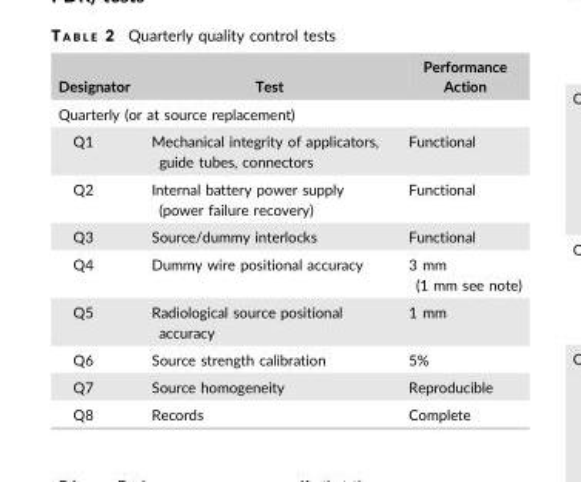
<table><thead><tr><td rowspan="2">Designator</td><td rowspan="2">Test</td><td rowspan="2">Performance Action</td></tr><tr></tr></thead><tbody><tr><td colspan="3">Quarterly (or at source replacement)</td></tr><tr><td>Q1</td><td>Mechanical integrity of applicators, guide tubes, connectors</td><td>Functional</td></tr><tr><td>Q2</td><td>Internal battery power supply (power failure recovery)</td><td>Functional</td></tr><tr><td>Q3</td><td>Source/dummy interlocks</td><td>Functional</td></tr><tr><td>Q4</td><td>Dummy wire positional accuracy</td><td>3 mm (1 mm see note)</td></tr><tr><td>Q5</td><td>Radiological source positional accuracy</td><td>1 mm</td></tr><tr><td>Q6</td><td>Source strength calibration</td><td>5%</td></tr><tr><td>Q7</td><td>Source homogeneity</td><td>Reproducible</td></tr><tr><td>Q8</td><td>Records</td><td>Complete</td></tr></tbody></table>